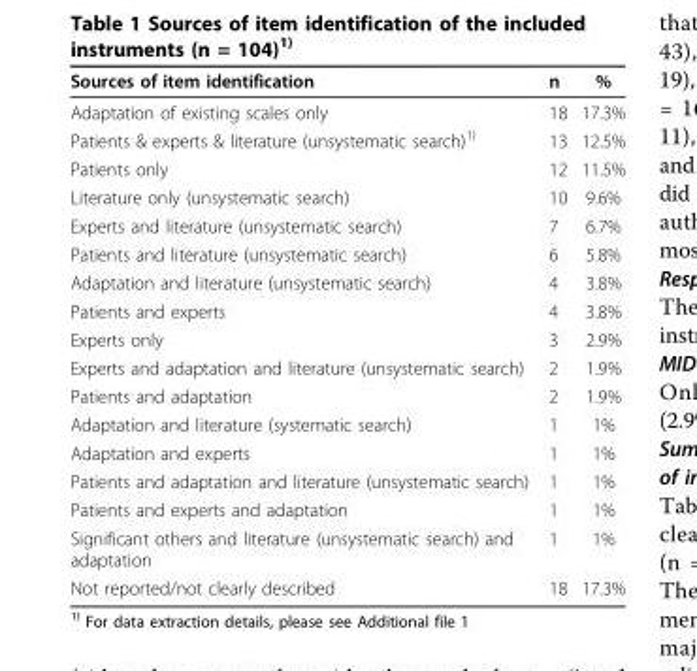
<table><thead><tr><td>Sources of item identification</td><td>n</td><td>%</td></tr></thead><tbody><tr><td>Adaptation of existing scales only</td><td>18</td><td>17.3%</td></tr><tr><td>Patients &amp; experts &amp; literature (unsystematic search)<sup>1)</sup></td><td>13</td><td>12.5%</td></tr><tr><td>Patients only</td><td>12</td><td>11.5%</td></tr><tr><td>Literature only (unsystematic search)</td><td>10</td><td>9.6%</td></tr><tr><td>Experts and literature (unsystematic search)</td><td>7</td><td>6.7%</td></tr><tr><td>Patients and literature (unsystematic search)</td><td>6</td><td>5.8%</td></tr><tr><td>Adaptation and literature (unsystematic search)</td><td>4</td><td>3.8%</td></tr><tr><td>Patients and experts</td><td>4</td><td>3.8%</td></tr><tr><td>Experts only</td><td>3</td><td>2.9%</td></tr><tr><td>Experts and adaptation and literature (unsystematic search)</td><td>2</td><td>1.9%</td></tr><tr><td>Patients and adaptation</td><td>2</td><td>1.9%</td></tr><tr><td>Adaptation and literature (systematic search)</td><td>1</td><td>1%</td></tr><tr><td>Adaptation and experts</td><td>1</td><td>1%</td></tr><tr><td>Patients and adaptation and literature (unsystematic search)</td><td>1</td><td>1%</td></tr><tr><td>Patients and experts and adaptation</td><td>1</td><td>1%</td></tr><tr><td>Significant others and literature (unsystematic search) and adaptation</td><td>1</td><td>1%</td></tr><tr><td>Not reported/not clearly described</td><td>18</td><td>17.3%</td></tr></tbody></table>